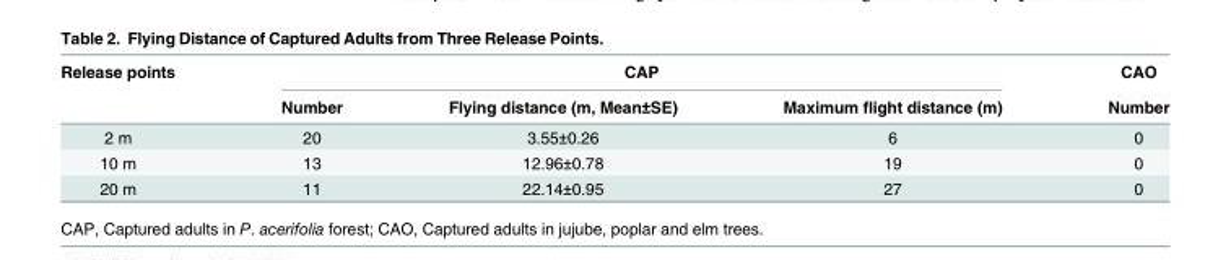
<table><thead><tr><td rowspan="2">Release points</td><td colspan="3">CAP</td><td rowspan="2">CAO Number</td></tr><tr><td>Number</td><td>Flying distance (m, Mean±SE)</td><td>Maximum flight distance (m)</td></tr></thead><tbody><tr><td>2 m</td><td>20</td><td>3.55±0.26</td><td>6</td><td>0</td></tr><tr><td>10 m</td><td>13</td><td>12.96±0.78</td><td>19</td><td>0</td></tr><tr><td>20 m</td><td>11</td><td>22.14±0.95</td><td>27</td><td>0</td></tr></tbody></table>